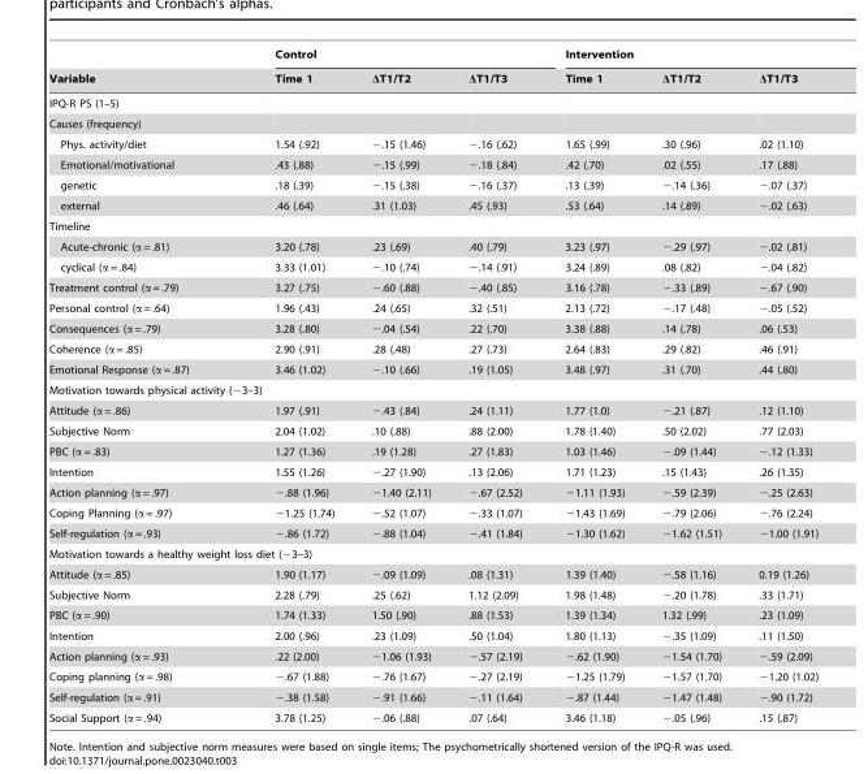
<table><thead><tr><td rowspan="2">Variable</td><td colspan="3">Control</td><td colspan="3">Intervention</td></tr><tr><td>Time 1</td><td>ΔT1/T2</td><td>ΔT1/T3</td><td>Time 1</td><td>ΔT1/T2</td><td>ΔT1/T3</td></tr></thead><tbody><tr><td colspan="7">IPQ-R PS (1–5)</td></tr><tr><td colspan="7">Causes (frequency)</td></tr><tr><td>Phys. activity/diet</td><td>1.54 (.92)</td><td>−.15 (1.46)</td><td>−.16 (.62)</td><td>1.65 (.99)</td><td>.30 (.96)</td><td>.02 (1.10)</td></tr><tr><td>Emotional/motivational</td><td>.43 (.88)</td><td>−.15 (.99)</td><td>−.18 (.84)</td><td>.42 (.70)</td><td>.02 (.55)</td><td>.17 (.88)</td></tr><tr><td>genetic</td><td>.18 (.39)</td><td>−.15 (.38)</td><td>−.16 (.37)</td><td>.13 (.39)</td><td>−.14 (.36)</td><td>−.07 (.37)</td></tr><tr><td>external</td><td>.46 (.64)</td><td>.31 (1.03)</td><td>.45 (.93)</td><td>.53 (.64)</td><td>.14 (.89)</td><td>−.02 (.63)</td></tr><tr><td colspan="7">Timeline</td></tr><tr><td>Acute-chronic (α = .81)</td><td>3.20 (.78)</td><td>.23 (.69)</td><td>.40 (.79)</td><td>3.23 (.97)</td><td>−.29 (.97)</td><td>−.02 (.81)</td></tr><tr><td>cyclical (α = .84)</td><td>3.33 (1.01)</td><td>−.10 (.74)</td><td>−.14 (.91)</td><td>3.24 (.89)</td><td>.08 (.82)</td><td>−.04 (.82)</td></tr><tr><td>Treatment control (α = .79)</td><td>3.27 (.75)</td><td>−.60 (.88)</td><td>−.40 (.85)</td><td>3.16 (.78)</td><td>−.33 (.89)</td><td>−.67 (.90)</td></tr><tr><td>Personal control (α = .64)</td><td>1.96 (.43)</td><td>.24 (.65)</td><td>.32 (.51)</td><td>2.13 (.72)</td><td>−.17 (.48)</td><td>−.05 (.52)</td></tr><tr><td>Consequences (α = .79)</td><td>3.28 (.80)</td><td>−.04 (.54)</td><td>.22 (.70)</td><td>3.38 (.88)</td><td>.14 (.78)</td><td>.06 (.53)</td></tr><tr><td>Coherence (α = .85)</td><td>2.90 (.91)</td><td>.28 (.48)</td><td>.27 (.73)</td><td>2.64 (.83)</td><td>.29 (.82)</td><td>.46 (.91)</td></tr><tr><td>Emotional Response (α = .87)</td><td>3.46 (1.02)</td><td>−.10 (.66)</td><td>.19 (1.05)</td><td>3.48 (.97)</td><td>.31 (.70)</td><td>.44 (.80)</td></tr><tr><td colspan="7">Motivation towards physical activity (−3–3)</td></tr><tr><td>Attitude (α = .86)</td><td>1.97 (.91)</td><td>−.43 (.84)</td><td>.24 (1.11)</td><td>1.77 (1.0)</td><td>−.21 (.87)</td><td>.12 (1.10)</td></tr><tr><td>Subjective Norm</td><td>2.04 (1.02)</td><td>.10 (.88)</td><td>.88 (2.00)</td><td>1.78 (1.40)</td><td>.50 (2.02)</td><td>.77 (2.03)</td></tr><tr><td>PBC (α = .83)</td><td>1.27 (1.36)</td><td>.19 (1.28)</td><td>.27 (1.83)</td><td>1.03 (1.46)</td><td>−.09 (1.44)</td><td>−.12 (1.33)</td></tr><tr><td>Intention</td><td>1.55 (1.26)</td><td>−.27 (1.90)</td><td>.13 (2.06)</td><td>1.71 (1.23)</td><td>.15 (1.43)</td><td>.26 (1.35)</td></tr><tr><td>Action planning (α = .97)</td><td>−.88 (1.96)</td><td>−1.40 (2.11)</td><td>−.67 (2.52)</td><td>−1.11 (1.93)</td><td>−.59 (2.39)</td><td>−.25 (2.63)</td></tr><tr><td>Coping Planning (α = .97)</td><td>−1.25 (1.74)</td><td>−.52 (1.07)</td><td>−.33 (1.07)</td><td>−1.43 (1.69)</td><td>−.79 (2.06)</td><td>−.76 (2.24)</td></tr><tr><td>Self-regulation (α = .93)</td><td>−.86 (1.72)</td><td>−.88 (1.04)</td><td>−.41 (1.84)</td><td>−1.30 (1.62)</td><td>−1.62 (1.51)</td><td>−1.00 (1.91)</td></tr><tr><td colspan="7">Motivation towards a healthy weight loss diet (−3–3)</td></tr><tr><td>Attitude (α = .85)</td><td>1.90 (1.17)</td><td>−.09 (1.09)</td><td>.08 (1.31)</td><td>1.39 (1.40)</td><td>−.58 (1.16)</td><td>0.19 (1.26)</td></tr><tr><td>Subjective Norm</td><td>2.28 (.79)</td><td>.25 (.62)</td><td>1.12 (2.09)</td><td>1.98 (1.48)</td><td>−.20 (1.78)</td><td>.33 (1.71)</td></tr><tr><td>PBC (α = .90)</td><td>1.74 (1.33)</td><td>1.50 (.90)</td><td>.88 (1.53)</td><td>1.39 (1.34)</td><td>1.32 (.99)</td><td>.23 (1.09)</td></tr><tr><td>Intention</td><td>2.00 (.96)</td><td>.23 (1.09)</td><td>.50 (1.04)</td><td>1.80 (1.13)</td><td>−.35 (1.09)</td><td>.11 (1.50)</td></tr><tr><td>Action planning (α = .93)</td><td>.22 (2.00)</td><td>−1.06 (1.93)</td><td>−.57 (2.19)</td><td>−.62 (1.90)</td><td>−1.54 (1.70)</td><td>−.59 (2.09)</td></tr><tr><td>Coping planning (α = .98)</td><td>−.67 (1.88)</td><td>−.76 (1.67)</td><td>−.27 (2.19)</td><td>−1.25 (1.79)</td><td>−1.57 (1.70)</td><td>−1.20 (1.02)</td></tr><tr><td>Self-regulation (α = .91)</td><td>−.38 (1.58)</td><td>−.91 (1.66)</td><td>−.11 (1.64)</td><td>−.87 (1.44)</td><td>−1.47 (1.48)</td><td>−.90 (1.72)</td></tr><tr><td>Social Support (α = .94)</td><td>3.78 (1.25)</td><td>−.06 (.88)</td><td>.07 (.64)</td><td>3.46 (1.18)</td><td>−.05 (.96)</td><td>.15 (.87)</td></tr></tbody></table>